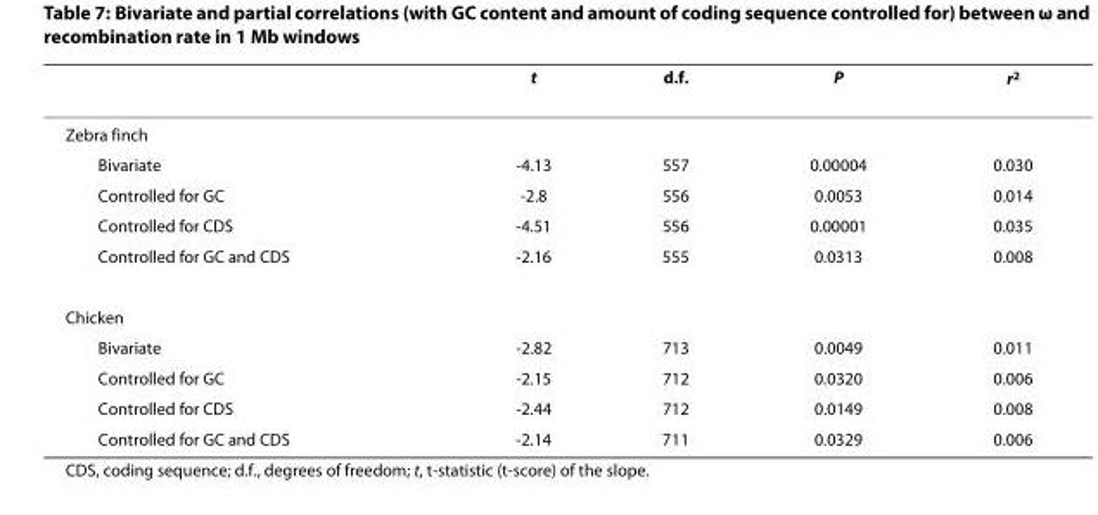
<table><thead><tr><td></td><td>t</td><td>d.f.</td><td>P</td><td>r<sup>2</sup></td></tr></thead><tbody><tr><td colspan="5">Zebra finch</td></tr><tr><td>Bivariate</td><td>-4.13</td><td>557</td><td>0.00004</td><td>0.030</td></tr><tr><td>Controlled for GC</td><td>-2.8</td><td>556</td><td>0.0053</td><td>0.014</td></tr><tr><td>Controlled for CDS</td><td>-4.51</td><td>556</td><td>0.00001</td><td>0.035</td></tr><tr><td>Controlled for GC and CDS</td><td>-2.16</td><td>555</td><td>0.0313</td><td>0.008</td></tr><tr><td colspan="5">Chicken</td></tr><tr><td>Bivariate</td><td>-2.82</td><td>713</td><td>0.0049</td><td>0.011</td></tr><tr><td>Controlled for GC</td><td>-2.15</td><td>712</td><td>0.0320</td><td>0.006</td></tr><tr><td>Controlled for CDS</td><td>-2.44</td><td>712</td><td>0.0149</td><td>0.008</td></tr><tr><td>Controlled for GC and CDS</td><td>-2.14</td><td>711</td><td>0.0329</td><td>0.006</td></tr></tbody></table>